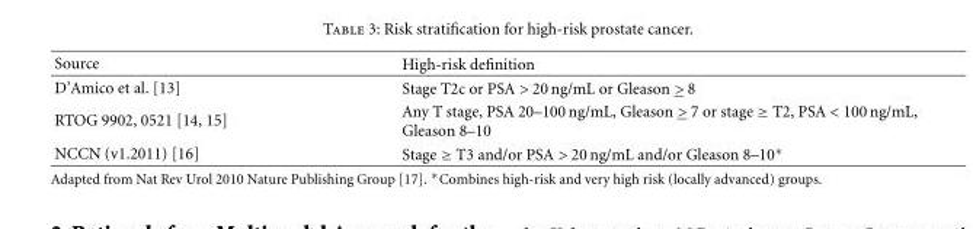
<table><thead><tr><td>Source</td><td>High-risk definition</td></tr></thead><tbody><tr><td>D’Amico et al. [13]</td><td>Stage T2c or PSA &gt; 20 ng/mL or Gleason &gt; 8</td></tr><tr><td>RTOG 9902, 0521 [14, 15]</td><td>Any T stage, PSA 20–100 ng/mL, Gleason &gt; 7 or stage ≥ T2, PSA &lt; 100 ng/mL, Gleason 8–10</td></tr><tr><td>NCCN (v1.2011) [16]</td><td>Stage ≥ T3 and/or PSA &gt; 20 ng/mL and/or Gleason 8–10∗</td></tr></tbody></table>